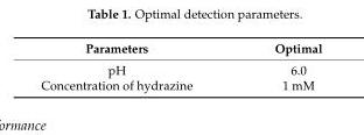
<table><thead><tr><td>Parameters</td><td>Optimal</td></tr></thead><tbody><tr><td>pH</td><td>6.0</td></tr><tr><td>Concentration of hydrazine</td><td>1 mM</td></tr></tbody></table>